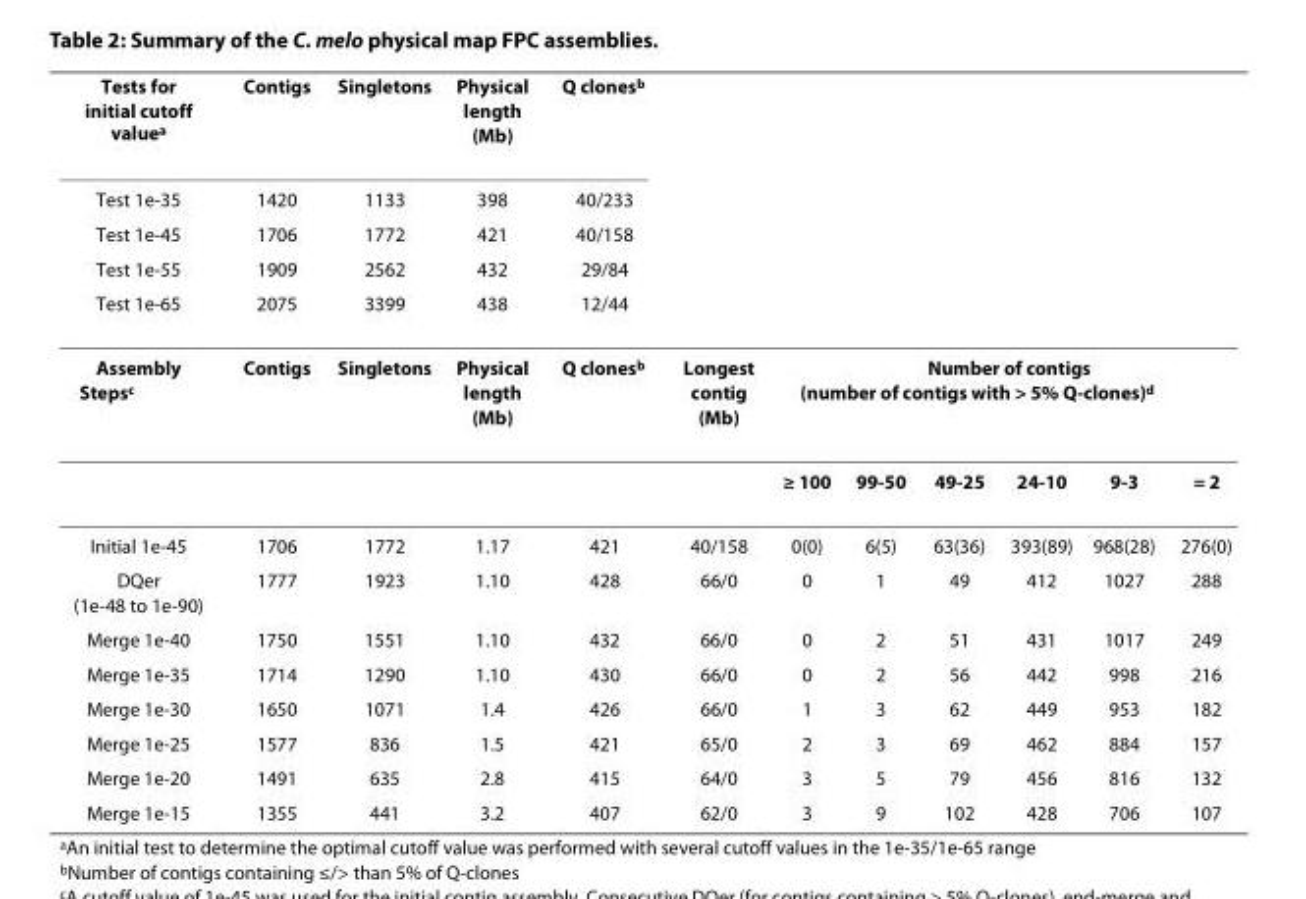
<table><thead><tr><td rowspan="5">Tests for initial cutoff valuea Test 1e-35 Test 1e-45 Test 1e-55 Test 1e-65</td><td rowspan="5">Contigs 1420 1706 1909 2075</td><td rowspan="5">Singletons 1133 1772 2562 3399</td><td rowspan="5">Physical length (Mb) 398 421 432 438</td><td rowspan="5">Q clonesb 40/233 40/158 29/84 12/44</td><td rowspan="5"></td><td rowspan="5"></td><td rowspan="5"></td><td rowspan="5"></td><td rowspan="5"></td><td rowspan="5"></td><td rowspan="5"></td></tr><tr></tr><tr></tr><tr></tr><tr></tr></thead><tbody><tr><td rowspan="2">Assembly Stepsc</td><td>Contigs</td><td>Singletons</td><td>Physical length (Mb)</td><td>Q clonesb</td><td>Longest contig (Mb)</td><td colspan="6">Number of contigs (number of contigs with &gt; 5% Q-clones)d</td></tr><tr><td></td><td></td><td></td><td></td><td></td><td>≥ 100</td><td>99-50</td><td>49-25</td><td>24-10</td><td>9-3</td><td>= 2</td></tr><tr><td>Initial 1e-45</td><td>1706</td><td>1772</td><td>1.17</td><td>421</td><td>40/158</td><td>0(0)</td><td>6(5)</td><td>63(36)</td><td>393(89)</td><td>968(28)</td><td>276(0)</td></tr><tr><td>DQer (1e-48 to 1e-90)</td><td>1777</td><td>1923</td><td>1.10</td><td>428</td><td>66/0</td><td>0</td><td>1</td><td>49</td><td>412</td><td>1027</td><td>288</td></tr><tr><td>Merge 1e-40</td><td>1750</td><td>1551</td><td>1.10</td><td>432</td><td>66/0</td><td>0</td><td>2</td><td>51</td><td>431</td><td>1017</td><td>249</td></tr><tr><td>Merge 1e-35</td><td>1714</td><td>1290</td><td>1.10</td><td>430</td><td>66/0</td><td>0</td><td>2</td><td>56</td><td>442</td><td>998</td><td>216</td></tr><tr><td>Merge 1e-30</td><td>1650</td><td>1071</td><td>1.4</td><td>426</td><td>66/0</td><td>1</td><td>3</td><td>62</td><td>449</td><td>953</td><td>182</td></tr><tr><td>Merge 1e-25</td><td>1577</td><td>836</td><td>1.5</td><td>421</td><td>65/0</td><td>2</td><td>3</td><td>69</td><td>462</td><td>884</td><td>157</td></tr><tr><td>Merge 1e-20</td><td>1491</td><td>635</td><td>2.8</td><td>415</td><td>64/0</td><td>3</td><td>5</td><td>79</td><td>456</td><td>816</td><td>132</td></tr><tr><td>Merge 1e-15</td><td>1355</td><td>441</td><td>3.2</td><td>407</td><td>62/0</td><td>3</td><td>9</td><td>102</td><td>428</td><td>706</td><td>107</td></tr></tbody></table>